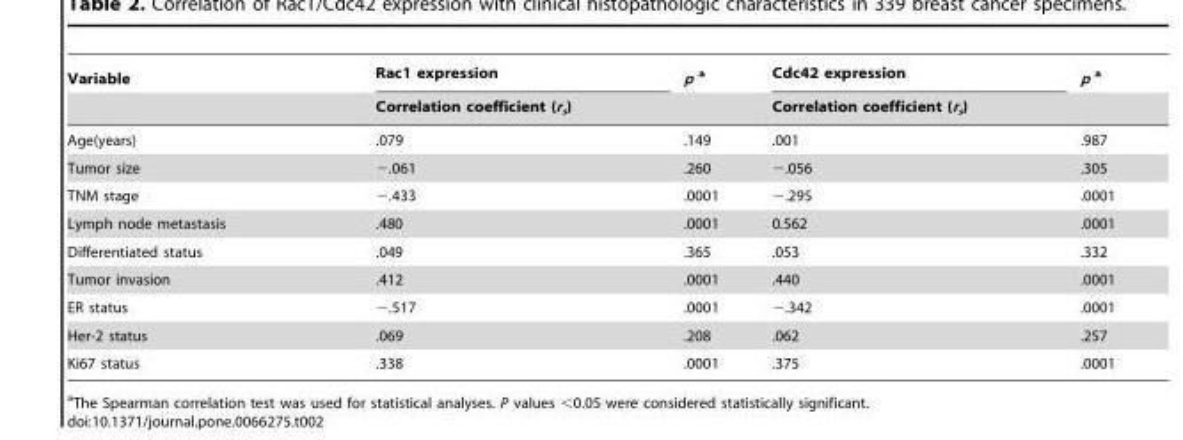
<table><thead><tr><td rowspan="2">Variable</td><td rowspan="2">Rac1 expression Correlation coefficient (rs)</td><td rowspan="2">p a</td><td rowspan="2">Cdc42 expression Correlation coefficient (rs)</td><td rowspan="2">p a</td></tr><tr></tr></thead><tbody><tr><td>Age(years)</td><td>.079</td><td>.149</td><td>.001</td><td>.987</td></tr><tr><td>Tumor size</td><td>−.061</td><td>.260</td><td>−.056</td><td>.305</td></tr><tr><td>TNM stage</td><td>−.433</td><td>.0001</td><td>−.295</td><td>.0001</td></tr><tr><td>Lymph node metastasis</td><td>.480</td><td>.0001</td><td>0.562</td><td>.0001</td></tr><tr><td>Differentiated status</td><td>.049</td><td>.365</td><td>.053</td><td>.332</td></tr><tr><td>Tumor invasion</td><td>.412</td><td>.0001</td><td>.440</td><td>.0001</td></tr><tr><td>ER status</td><td>−.517</td><td>.0001</td><td>−.342</td><td>.0001</td></tr><tr><td>Her-2 status</td><td>.069</td><td>.208</td><td>.062</td><td>.257</td></tr><tr><td>Ki67 status</td><td>.338</td><td>.0001</td><td>.375</td><td>.0001</td></tr></tbody></table>